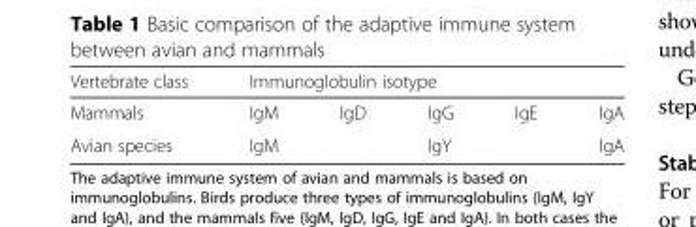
<table><thead><tr><td rowspan="2">Vertebrate class Mammals</td><td colspan="5">Immunoglobulin isotype</td></tr><tr><td>IgM</td><td>IgD</td><td>IgG</td><td>IgE</td><td>IgA</td></tr></thead><tbody><tr><td>Avian species</td><td>IgM</td><td></td><td colspan="2">IgY</td><td>IgA</td></tr></tbody></table>